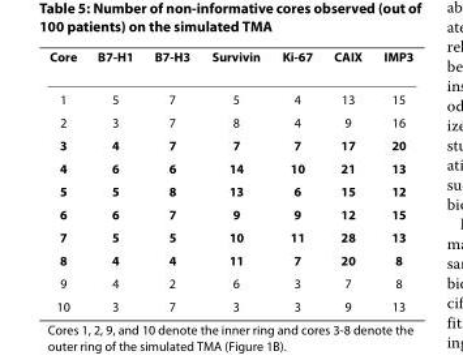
<table><thead><tr><td>Core</td><td>B7-H1</td><td>B7-H3</td><td>Survivin</td><td>Ki-67</td><td>CAIX</td><td>IMP3</td></tr></thead><tbody><tr><td>1</td><td>5</td><td>7</td><td>5</td><td>4</td><td>13</td><td>15</td></tr><tr><td>2</td><td>3</td><td>7</td><td>8</td><td>4</td><td>9</td><td>16</td></tr><tr><td>3</td><td>4</td><td>7</td><td>7</td><td>7</td><td>17</td><td>20</td></tr><tr><td>4</td><td>6</td><td>6</td><td>14</td><td>10</td><td>21</td><td>13</td></tr><tr><td>5</td><td>5</td><td>8</td><td>13</td><td>6</td><td>15</td><td>12</td></tr><tr><td>6</td><td>6</td><td>7</td><td>9</td><td>9</td><td>12</td><td>15</td></tr><tr><td>7</td><td>5</td><td>5</td><td>10</td><td>11</td><td>28</td><td>13</td></tr><tr><td>8</td><td>4</td><td>4</td><td>11</td><td>7</td><td>20</td><td>8</td></tr><tr><td>9</td><td>4</td><td>2</td><td>6</td><td>3</td><td>7</td><td>8</td></tr><tr><td>10</td><td>3</td><td>7</td><td>3</td><td>3</td><td>9</td><td>13</td></tr></tbody></table>